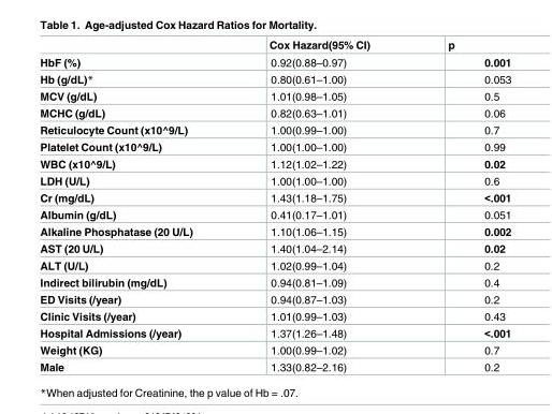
<table><thead><tr><td></td><td>Cox Hazard(95% CI)</td><td>p</td></tr></thead><tbody><tr><td>HbF (%)</td><td>0.92(0.88–0.97)</td><td>0.001</td></tr><tr><td>Hb (g/dL)*</td><td>0.80(0.61–1.00)</td><td>0.053</td></tr><tr><td>MCV (g/dL)</td><td>1.01(0.98–1.05)</td><td>0.5</td></tr><tr><td>MCHC (g/dL)</td><td>0.82(0.63–1.01)</td><td>0.06</td></tr><tr><td>Reticulocyte Count (x10^9/L)</td><td>1.00(0.99–1.00)</td><td>0.7</td></tr><tr><td>Platelet Count (x10^9/L)</td><td>1.00(1.00–1.00)</td><td>0.99</td></tr><tr><td>WBC (x10^9/L)</td><td>1.12(1.02–1.22)</td><td>0.02</td></tr><tr><td>LDH (U/L)</td><td>1.00(1.00–1.00)</td><td>0.6</td></tr><tr><td>Cr (mg/dL)</td><td>1.43(1.18–1.75)</td><td>&lt;.001</td></tr><tr><td>Albumin (g/dL)</td><td>0.41(0.17–1.01)</td><td>0.051</td></tr><tr><td>Alkaline Phosphatase (20 U/L)</td><td>1.10(1.06–1.15)</td><td>0.002</td></tr><tr><td>AST (20 U/L)</td><td>1.40(1.04–2.14)</td><td>0.02</td></tr><tr><td>ALT (U/L)</td><td>1.02(0.99–1.04)</td><td>0.2</td></tr><tr><td>Indirect bilirubin (mg/dL)</td><td>0.94(0.81–1.09)</td><td>0.4</td></tr><tr><td>ED Visits (/year)</td><td>0.94(0.87–1.03)</td><td>0.2</td></tr><tr><td>Clinic Visits (/year)</td><td>1.01(0.99–1.03)</td><td>0.43</td></tr><tr><td>Hospital Admissions (/year)</td><td>1.37(1.26–1.48)</td><td>&lt;.001</td></tr><tr><td>Weight (KG)</td><td>1.00(0.99–1.02)</td><td>0.7</td></tr><tr><td>Male</td><td>1.33(0.82–2.16)</td><td>0.2</td></tr></tbody></table>